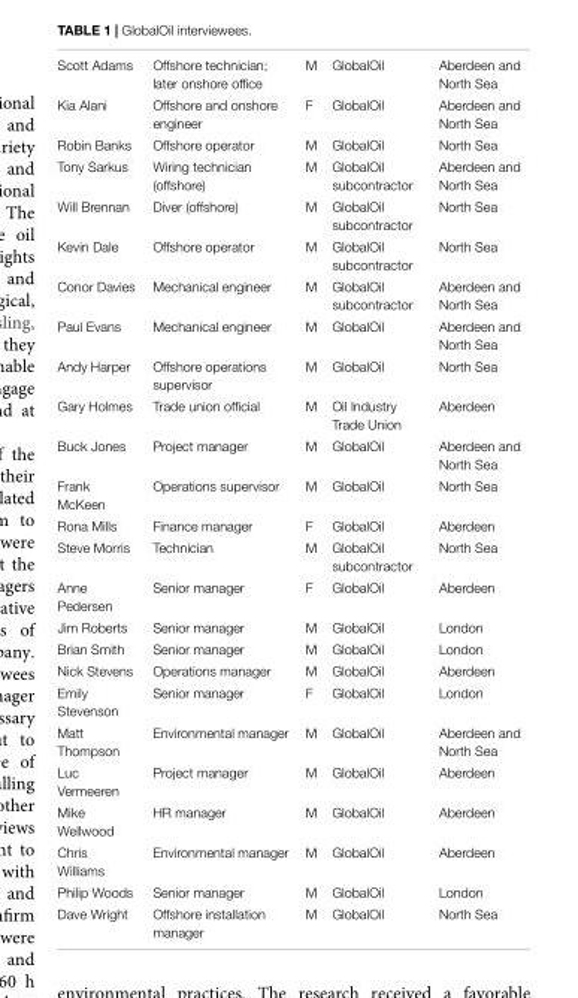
<table><tbody><tr><td>Scott Adams</td><td>Offshore technician; later onshore office</td><td>M</td><td>GlobalOil</td><td>Aberdeen and North Sea</td></tr><tr><td>Kia Alani</td><td>Offshore and onshore engineer</td><td>F</td><td>GlobalOil</td><td>Aberdeen and North Sea</td></tr><tr><td>Robin Banks</td><td>Offshore operator</td><td>M</td><td>GlobalOil</td><td>North Sea</td></tr><tr><td>Tony Sarkus</td><td>Wiring technician (offshore)</td><td>M</td><td>GlobalOil subcontractor</td><td>Aberdeen and North Sea</td></tr><tr><td>Will Brennan</td><td>Diver (offshore)</td><td>M</td><td>GlobalOil subcontractor</td><td>North Sea</td></tr><tr><td>Kevin Dale</td><td>Offshore operator</td><td>M</td><td>GlobalOil subcontractor</td><td>North Sea</td></tr><tr><td>Conor Davies</td><td>Mechanical engineer</td><td>M</td><td>GlobalOil subcontractor</td><td>Aberdeen and North Sea</td></tr><tr><td>Paul Evans</td><td>Mechanical engineer</td><td>M</td><td>GlobalOil</td><td>Aberdeen and North Sea</td></tr><tr><td>Andy Harper</td><td>Offshore operations supervisor</td><td>M</td><td>GlobalOil</td><td>North Sea</td></tr><tr><td>Gary Holmes</td><td>Trade union official</td><td>M</td><td>Oil Industry Trade Union</td><td>Aberdeen</td></tr><tr><td>Buck Jones</td><td>Project manager</td><td>M</td><td>GlobalOil</td><td>Aberdeen and North Sea</td></tr><tr><td>Frank McKeen</td><td>Operations supervisor</td><td>M</td><td>GlobalOil</td><td>North Sea</td></tr><tr><td>Rona Mills</td><td>Finance manager</td><td>F</td><td>GlobalOil</td><td>Aberdeen</td></tr><tr><td>Steve Morris</td><td>Technician</td><td>M</td><td>GlobalOil subcontractor</td><td>North Sea</td></tr><tr><td>Anne Pedersen</td><td>Senior manager</td><td>F</td><td>GlobalOil</td><td>Aberdeen</td></tr><tr><td>Jim Roberts</td><td>Senior manager</td><td>M</td><td>GlobalOil</td><td>London</td></tr><tr><td>Brian Smith</td><td>Senior manager</td><td>M</td><td>GlobalOil</td><td>London</td></tr><tr><td>Nick Stevens</td><td>Operations manager</td><td>M</td><td>GlobalOil</td><td>Aberdeen</td></tr><tr><td>Emily Stevenson</td><td>Senior manager</td><td>F</td><td>GlobalOil</td><td>London</td></tr><tr><td>Matt Thompson</td><td>Environmental manager</td><td>M</td><td>GlobalOil</td><td>Aberdeen and North Sea</td></tr><tr><td>Luc Vermeeren</td><td>Project manager</td><td>M</td><td>GlobalOil</td><td>Aberdeen</td></tr><tr><td>Mike Wellwood</td><td>HR manager</td><td>M</td><td>GlobalOil</td><td>Aberdeen</td></tr><tr><td>Chris Williams</td><td>Environmental manager</td><td>M</td><td>GlobalOil</td><td>Aberdeen</td></tr><tr><td>Philip Woods</td><td>Senior manager</td><td>M</td><td>GlobalOil</td><td>London</td></tr><tr><td>Dave Wright</td><td>Offshore installation manager</td><td>M</td><td>GlobalOil</td><td>North Sea</td></tr></tbody></table>